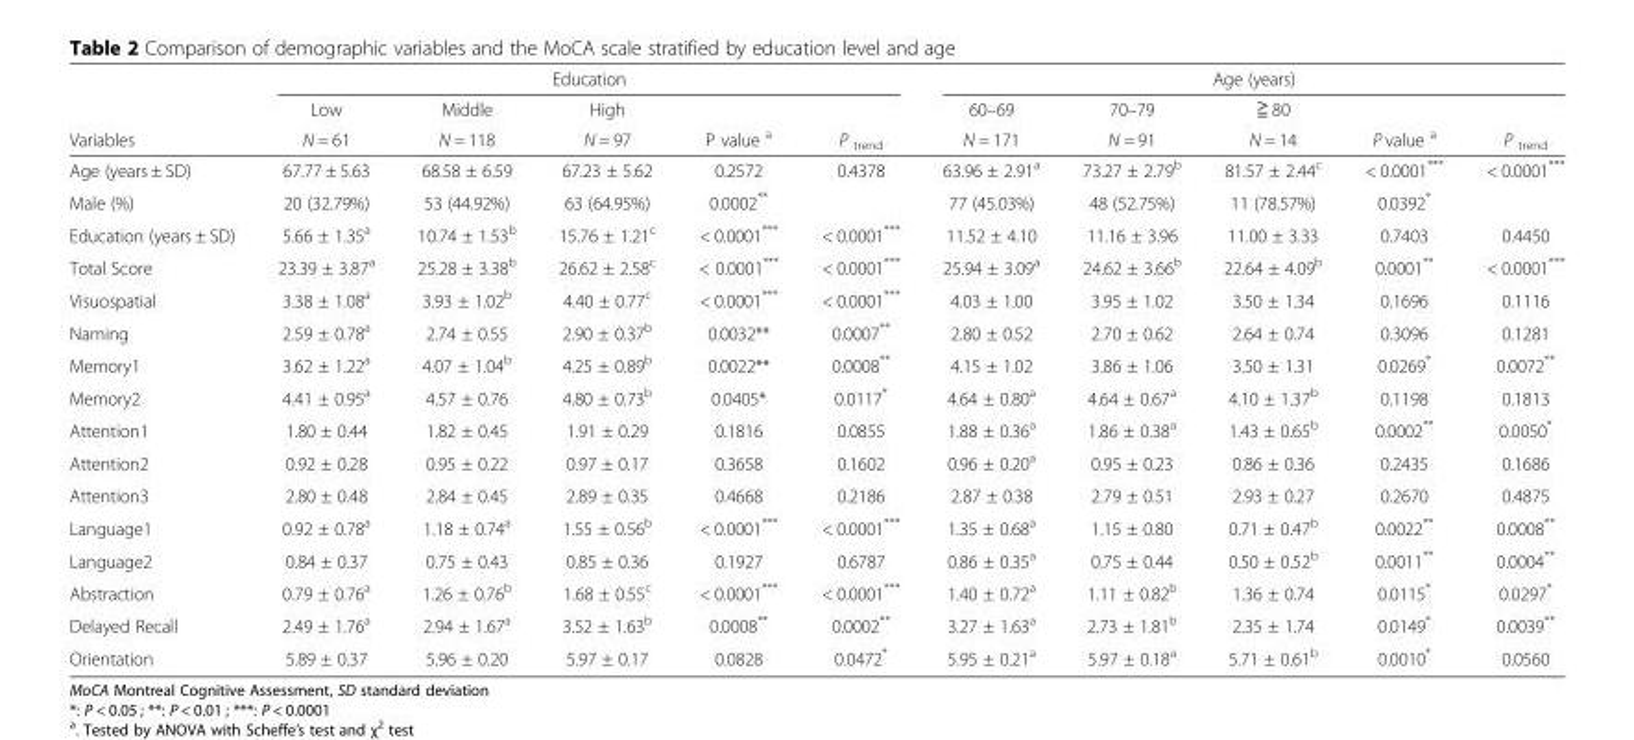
<table><thead><tr><td rowspan="3">Variables</td><td colspan="5">Education</td><td colspan="5">Age (years)</td></tr><tr><td rowspan="2">Low N = 61</td><td rowspan="2">Middle N = 118</td><td rowspan="2">High N = 97</td><td rowspan="2">P value a</td><td rowspan="2">P <sub>trend</sub></td><td rowspan="2">60–69 N = 171</td><td rowspan="2">70–79 N = 91</td><td rowspan="2">≧ 80 N = 14</td><td rowspan="2">P value a</td><td rowspan="2">P <sub>trend</sub></td></tr><tr></tr></thead><tbody><tr><td>Age (years ± SD)</td><td>67.77 ± 5.63</td><td>68.58 ± 6.59</td><td>67.23 ± 5.62</td><td>0.2572</td><td>0.4378</td><td>63.96 ± 2.91<sup>a</sup></td><td>73.27 ± 2.79<sup>b</sup></td><td>81.57 ± 2.44<sup>c</sup></td><td>&lt; 0.0001***</td><td>&lt; 0.0001***</td></tr><tr><td>Male (%)</td><td>20 (32.79%)</td><td>53 (44.92%)</td><td>63 (64.95%)</td><td>0.0002**</td><td></td><td>77 (45.03%)</td><td>48 (52.75%)</td><td>11 (78.57%)</td><td>0.0392*</td><td></td></tr><tr><td>Education (years ± SD)</td><td>5.66 ± 1.35<sup>a</sup></td><td>10.74 ± 1.53<sup>b</sup></td><td>15.76 ± 1.21<sup>c</sup></td><td>&lt; 0.0001***</td><td>&lt; 0.0001***</td><td>11.52 ± 4.10</td><td>11.16 ± 3.96</td><td>11.00 ± 3.33</td><td>0.7403</td><td>0.4450</td></tr><tr><td>Total Score</td><td>23.39 ± 3.87<sup>a</sup></td><td>25.28 ± 3.38<sup>b</sup></td><td>26.62 ± 2.58<sup>c</sup></td><td>&lt; 0.0001***</td><td>&lt; 0.0001***</td><td>25.94 ± 3.09<sup>a</sup></td><td>24.62 ± 3.66<sup>b</sup></td><td>22.64 ± 4.09<sup>b</sup></td><td>0.0001**</td><td>&lt; 0.0001***</td></tr><tr><td>Visuospatial</td><td>3.38 ± 1.08<sup>a</sup></td><td>3.93 ± 1.02<sup>b</sup></td><td>4.40 ± 0.77<sup>c</sup></td><td>&lt; 0.0001***</td><td>&lt; 0.0001***</td><td>4.03 ± 1.00</td><td>3.95 ± 1.02</td><td>3.50 ± 1.34</td><td>0.1696</td><td>0.1116</td></tr><tr><td>Naming</td><td>2.59 ± 0.78<sup>a</sup></td><td>2.74 ± 0.55</td><td>2.90 ± 0.37<sup>b</sup></td><td>0.0032**</td><td>0.0007**</td><td>2.80 ± 0.52</td><td>2.70 ± 0.62</td><td>2.64 ± 0.74</td><td>0.3096</td><td>0.1281</td></tr><tr><td>Memory1</td><td>3.62 ± 1.22<sup>a</sup></td><td>4.07 ± 1.04<sup>b</sup></td><td>4.25 ± 0.89<sup>b</sup></td><td>0.0022**</td><td>0.0008**</td><td>4.15 ± 1.02</td><td>3.86 ± 1.06</td><td>3.50 ± 1.31</td><td>0.0269*</td><td>0.0072**</td></tr><tr><td>Memory2</td><td>4.41 ± 0.95<sup>a</sup></td><td>4.57 ± 0.76</td><td>4.80 ± 0.73<sup>b</sup></td><td>0.0405*</td><td>0.0117*</td><td>4.64 ± 0.80<sup>a</sup></td><td>4.64 ± 0.67<sup>a</sup></td><td>4.10 ± 1.37<sup>b</sup></td><td>0.1198</td><td>0.1813</td></tr><tr><td>Attention1</td><td>1.80 ± 0.44</td><td>1.82 ± 0.45</td><td>1.91 ± 0.29</td><td>0.1816</td><td>0.0855</td><td>1.88 ± 0.36<sup>a</sup></td><td>1.86 ± 0.38<sup>a</sup></td><td>1.43 ± 0.65<sup>b</sup></td><td>0.0002**</td><td>0.0050*</td></tr><tr><td>Attention2</td><td>0.92 ± 0.28</td><td>0.95 ± 0.22</td><td>0.97 ± 0.17</td><td>0.3658</td><td>0.1602</td><td>0.96 ± 0.20<sup>a</sup></td><td>0.95 ± 0.23</td><td>0.86 ± 0.36</td><td>0.2435</td><td>0.1686</td></tr><tr><td>Attention3</td><td>2.80 ± 0.48</td><td>2.84 ± 0.45</td><td>2.89 ± 0.35</td><td>0.4668</td><td>0.2186</td><td>2.87 ± 0.38</td><td>2.79 ± 0.51</td><td>2.93 ± 0.27</td><td>0.2670</td><td>0.4875</td></tr><tr><td>Language1</td><td>0.92 ± 0.78<sup>a</sup></td><td>1.18 ± 0.74<sup>a</sup></td><td>1.55 ± 0.56<sup>b</sup></td><td>&lt; 0.0001***</td><td>&lt; 0.0001***</td><td>1.35 ± 0.68<sup>a</sup></td><td>1.15 ± 0.80</td><td>0.71 ± 0.47<sup>b</sup></td><td>0.0022**</td><td>0.0008**</td></tr><tr><td>Language2</td><td>0.84 ± 0.37</td><td>0.75 ± 0.43</td><td>0.85 ± 0.36</td><td>0.1927</td><td>0.6787</td><td>0.86 ± 0.35<sup>a</sup></td><td>0.75 ± 0.44</td><td>0.50 ± 0.52<sup>b</sup></td><td>0.0011**</td><td>0.0004**</td></tr><tr><td>Abstraction</td><td>0.79 ± 0.76<sup>a</sup></td><td>1.26 ± 0.76<sup>b</sup></td><td>1.68 ± 0.55<sup>c</sup></td><td>&lt; 0.0001***</td><td>&lt; 0.0001***</td><td>1.40 ± 0.72<sup>a</sup></td><td>1.11 ± 0.82<sup>b</sup></td><td>1.36 ± 0.74</td><td>0.0115*</td><td>0.0297*</td></tr><tr><td>Delayed Recall</td><td>2.49 ± 1.76<sup>a</sup></td><td>2.94 ± 1.67<sup>a</sup></td><td>3.52 ± 1.63<sup>b</sup></td><td>0.0008**</td><td>0.0002**</td><td>3.27 ± 1.63<sup>a</sup></td><td>2.73 ± 1.81<sup>b</sup></td><td>2.35 ± 1.74</td><td>0.0149*</td><td>0.0039**</td></tr><tr><td>Orientation</td><td>5.89 ± 0.37</td><td>5.96 ± 0.20</td><td>5.97 ± 0.17</td><td>0.0828</td><td>0.0472*</td><td>5.95 ± 0.21<sup>a</sup></td><td>5.97 ± 0.18<sup>a</sup></td><td>5.71 ± 0.61<sup>b</sup></td><td>0.0010*</td><td>0.0560</td></tr></tbody></table>